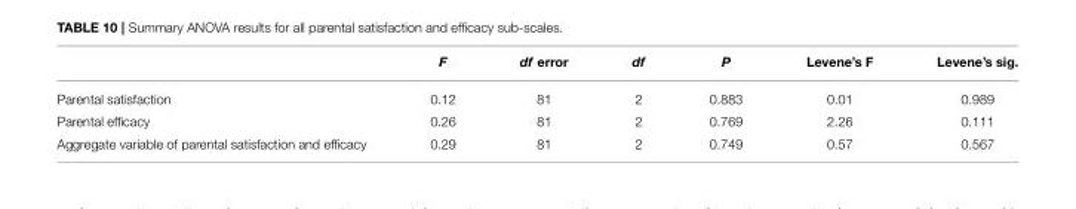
<table><thead><tr><td></td><td>F</td><td>df error</td><td>df</td><td>P</td><td>Levene’s F</td><td>Levene’s sig.</td></tr></thead><tbody><tr><td>Parental satisfaction</td><td>0.12</td><td>81</td><td>2</td><td>0.883</td><td>0.01</td><td>0.989</td></tr><tr><td>Parental efficacy</td><td>0.26</td><td>81</td><td>2</td><td>0.769</td><td>2.26</td><td>0.111</td></tr><tr><td>Aggregate variable of parental satisfaction and efficacy</td><td>0.29</td><td>81</td><td>2</td><td>0.749</td><td>0.57</td><td>0.567</td></tr></tbody></table>